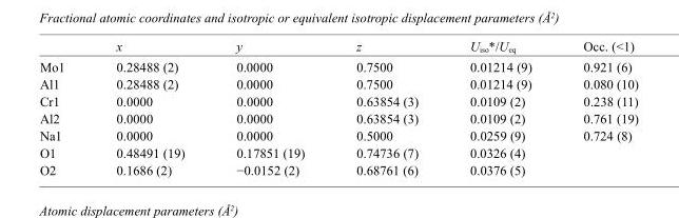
<table><thead><tr><td></td><td>x</td><td>y</td><td>z</td><td>U<sub>iso</sub>*/U<sub>eq</sub></td><td>Occ. (&lt;1)</td></tr></thead><tbody><tr><td>Mo1</td><td>0.28488 (2)</td><td>0.0000</td><td>0.7500</td><td>0.01214 (9)</td><td>0.921 (6)</td></tr><tr><td>Al1</td><td>0.28488 (2)</td><td>0.0000</td><td>0.7500</td><td>0.01214 (9)</td><td>0.080 (10)</td></tr><tr><td>Cr1</td><td>0.0000</td><td>0.0000</td><td>0.63854 (3)</td><td>0.0109 (2)</td><td>0.238 (11)</td></tr><tr><td>Al2</td><td>0.0000</td><td>0.0000</td><td>0.63854 (3)</td><td>0.0109 (2)</td><td>0.761 (19)</td></tr><tr><td>Na1</td><td>0.0000</td><td>0.0000</td><td>0.5000</td><td>0.0259 (9)</td><td>0.724 (8)</td></tr><tr><td>O1</td><td>0.48491 (19)</td><td>0.17851 (19)</td><td>0.74736 (7)</td><td>0.0326 (4)</td><td></td></tr><tr><td>O2</td><td>0.1686 (2)</td><td>−0.0152 (2)</td><td>0.68761 (6)</td><td>0.0376 (5)</td><td></td></tr></tbody></table>